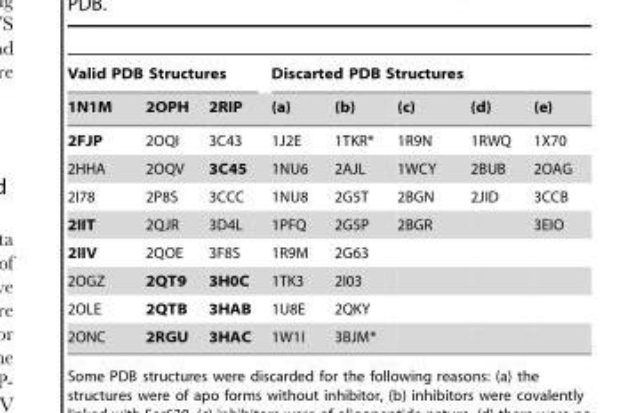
<table><thead><tr><td colspan="3">Valid PDB Structures</td><td colspan="5">Discarted PDB Structures</td></tr><tr><td>1N1M</td><td>2OPH</td><td>2RIP</td><td>(a)</td><td>(b)</td><td>(c)</td><td>(d)</td><td>(e)</td></tr></thead><tbody><tr><td>2FJP</td><td>2OQI</td><td>3C43</td><td>1J2E</td><td>1TKR*</td><td>1R9N</td><td>1RWQ</td><td>1X70</td></tr><tr><td>2HHA</td><td>2OQV</td><td>3C45</td><td>1NU6</td><td>2AJL</td><td>1WCY</td><td>2BUB</td><td>2OAG</td></tr><tr><td>2I78</td><td>2P8S</td><td>3CCC</td><td>1NU8</td><td>2G5T</td><td>2BGN</td><td>2JID</td><td>3CCB</td></tr><tr><td>2IIT</td><td>2QJR</td><td>3D4L</td><td>1PFQ</td><td>2G5P</td><td>2BGR</td><td></td><td>3EIO</td></tr><tr><td>2IIV</td><td>2QOE</td><td>3F8S</td><td>1R9M</td><td>2G63</td><td></td><td></td><td></td></tr><tr><td>2OGZ</td><td>2QT9</td><td>3H0C</td><td>1TK3</td><td>2I03</td><td></td><td></td><td></td></tr><tr><td>2OLE</td><td>2QTB</td><td>3HAB</td><td>1U8E</td><td>2QKY</td><td></td><td></td><td></td></tr><tr><td>2ONC</td><td>2RGU</td><td>3HAC</td><td>1W1I</td><td>3BJM*</td><td></td><td></td><td></td></tr></tbody></table>